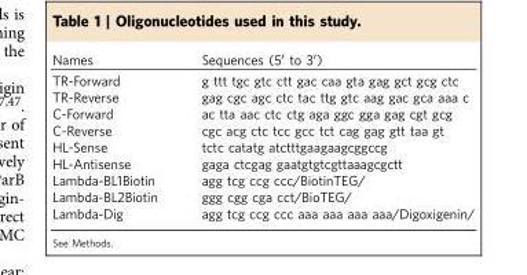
<table><thead><tr><td>Names</td><td>Sequences (5′ to 3′)</td></tr></thead><tbody><tr><td>TR-Forward</td><td>g ttt tgc gtc ctt gac caa gta gag gct gcg ctc</td></tr><tr><td>TR-Reverse</td><td>gag cgc agc ctc tac ttg gtc aag gac gca aaa c</td></tr><tr><td>C-Forward</td><td>ac tta aac ctc ctg aga ggc gga gag cgt gcg</td></tr><tr><td>C-Reverse</td><td>cgc acg ctc tcc gcc tct cag gag gtt taa gt</td></tr><tr><td>HL-Sense</td><td>tctc catatg atctttgaagaagcggccg</td></tr><tr><td>HL-Antisense</td><td>gaga ctcgag gaatgtgtcgttaaagcgctt</td></tr><tr><td>Lambda-BL1Biotin</td><td>agg tcg ccg ccc/BiotinTEG/</td></tr><tr><td>Lambda-BL2Biotin</td><td>ggg cgg cga cct/BioTEG/</td></tr><tr><td>Lambda-Dig</td><td>agg tcg ccg ccc aaa aaa aaa aaa/Digoxigenin/</td></tr></tbody></table>